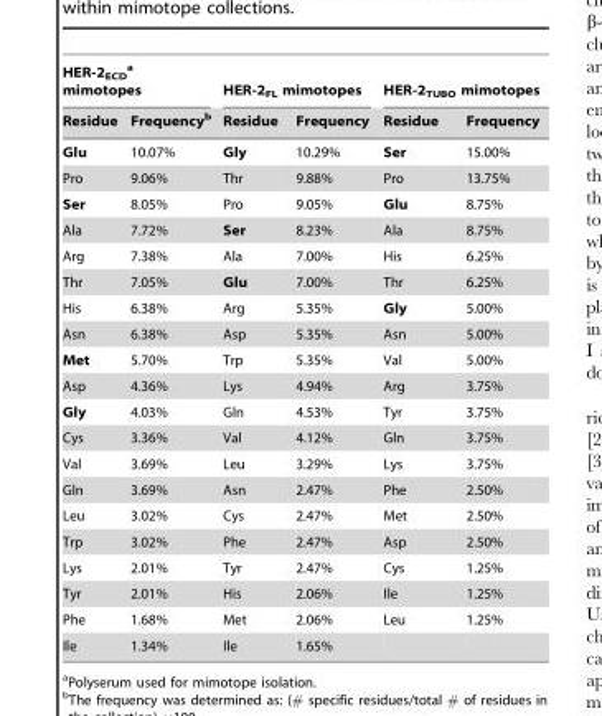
<table><thead><tr><td colspan="2">HER-2<sub>ECD</sub> a mimotopes</td><td colspan="2">HER-2<sub>FL</sub> mimotopes</td><td colspan="2">HER-2<sub>TUBO</sub> mimotopes</td></tr><tr><td>Residue</td><td>Frequency<sup>b</sup></td><td>Residue</td><td>Frequency</td><td>Residue</td><td>Frequency</td></tr></thead><tbody><tr><td>Glu</td><td>10.07%</td><td>Gly</td><td>10.29%</td><td>Ser</td><td>15.00%</td></tr><tr><td>Pro</td><td>9.06%</td><td>Thr</td><td>9.88%</td><td>Pro</td><td>13.75%</td></tr><tr><td>Ser</td><td>8.05%</td><td>Pro</td><td>9.05%</td><td>Glu</td><td>8.75%</td></tr><tr><td>Ala</td><td>7.72%</td><td>Ser</td><td>8.23%</td><td>Ala</td><td>8.75%</td></tr><tr><td>Arg</td><td>7.38%</td><td>Ala</td><td>7.00%</td><td>His</td><td>6.25%</td></tr><tr><td>Thr</td><td>7.05%</td><td>Glu</td><td>7.00%</td><td>Thr</td><td>6.25%</td></tr><tr><td>His</td><td>6.38%</td><td>Arg</td><td>5.35%</td><td>Gly</td><td>5.00%</td></tr><tr><td>Asn</td><td>6.38%</td><td>Asp</td><td>5.35%</td><td>Asn</td><td>5.00%</td></tr><tr><td>Met</td><td>5.70%</td><td>Trp</td><td>5.35%</td><td>Val</td><td>5.00%</td></tr><tr><td>Asp</td><td>4.36%</td><td>Lys</td><td>4.94%</td><td>Arg</td><td>3.75%</td></tr><tr><td>Gly</td><td>4.03%</td><td>Gln</td><td>4.53%</td><td>Tyr</td><td>3.75%</td></tr><tr><td>Cys</td><td>3.36%</td><td>Val</td><td>4.12%</td><td>Gln</td><td>3.75%</td></tr><tr><td>Val</td><td>3.69%</td><td>Leu</td><td>3.29%</td><td>Lys</td><td>3.75%</td></tr><tr><td>Gln</td><td>3.69%</td><td>Asn</td><td>2.47%</td><td>Phe</td><td>2.50%</td></tr><tr><td>Leu</td><td>3.02%</td><td>Cys</td><td>2.47%</td><td>Met</td><td>2.50%</td></tr><tr><td>Trp</td><td>3.02%</td><td>Phe</td><td>2.47%</td><td>Asp</td><td>2.50%</td></tr><tr><td>Lys</td><td>2.01%</td><td>Tyr</td><td>2.47%</td><td>Cys</td><td>1.25%</td></tr><tr><td>Tyr</td><td>2.01%</td><td>His</td><td>2.06%</td><td>Ile</td><td>1.25%</td></tr><tr><td>Phe</td><td>1.68%</td><td>Met</td><td>2.06%</td><td>Leu</td><td>1.25%</td></tr><tr><td>Ile</td><td>1.34%</td><td>Ile</td><td>1.65%</td><td></td><td></td></tr></tbody></table>